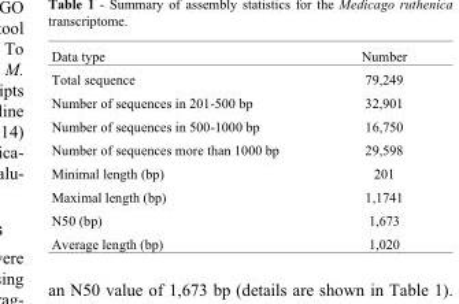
<table><thead><tr><td>Data type</td><td>Number</td></tr></thead><tbody><tr><td>Total sequence</td><td>79,249</td></tr><tr><td>Number of sequences in 201-500 bp</td><td>32,901</td></tr><tr><td>Number of sequences in 500-1000 bp</td><td>16,750</td></tr><tr><td>Number of sequences more than 1000 bp</td><td>29,598</td></tr><tr><td>Minimal length (bp)</td><td>201</td></tr><tr><td>Maximal length (bp)</td><td>1,1741</td></tr><tr><td>N50 (bp)</td><td>1,673</td></tr><tr><td>Average length (bp)</td><td>1,020</td></tr></tbody></table>